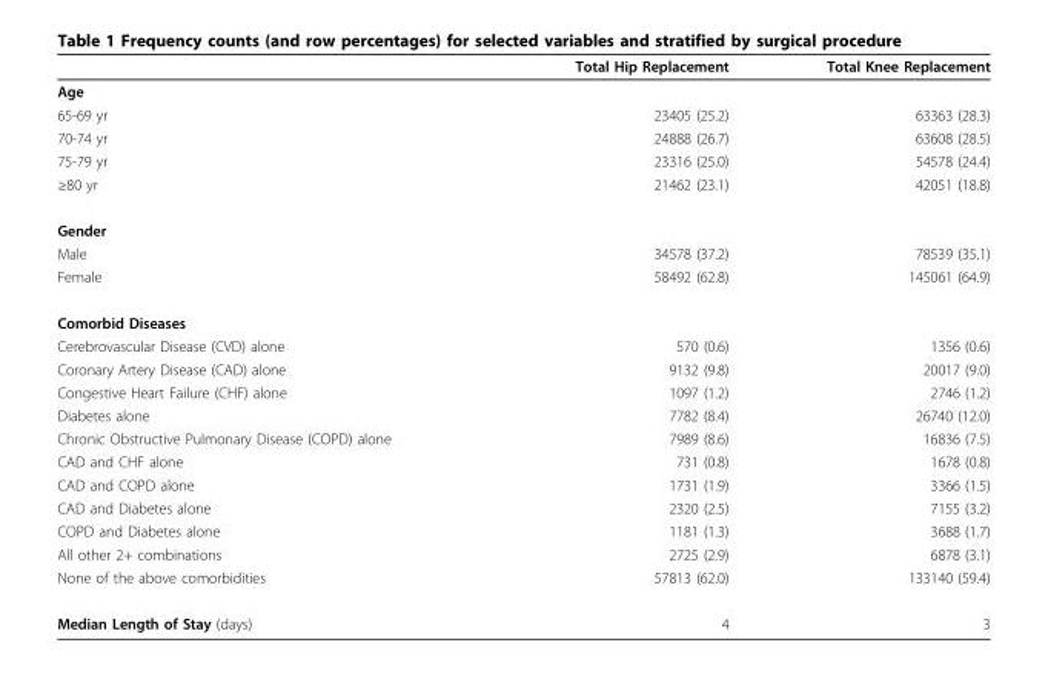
<table><thead><tr><td></td><td>Total Hip Replacement</td><td>Total Knee Replacement</td></tr></thead><tbody><tr><td colspan="3">Age</td></tr><tr><td>65-69 yr</td><td>23405 (25.2)</td><td>63363 (28.3)</td></tr><tr><td>70-74 yr</td><td>24888 (26.7)</td><td>63608 (28.5)</td></tr><tr><td>75-79 yr</td><td>23316 (25.0)</td><td>54578 (24.4)</td></tr><tr><td>≥80 yr</td><td>21462 (23.1)</td><td>42051 (18.8)</td></tr><tr><td colspan="3">Gender</td></tr><tr><td>Male</td><td>34578 (37.2)</td><td>78539 (35.1)</td></tr><tr><td>Female</td><td>58492 (62.8)</td><td>145061 (64.9)</td></tr><tr><td colspan="3">Comorbid Diseases</td></tr><tr><td>Cerebrovascular Disease (CVD) alone</td><td>570 (0.6)</td><td>1356 (0.6)</td></tr><tr><td>Coronary Artery Disease (CAD) alone</td><td>9132 (9.8)</td><td>20017 (9.0)</td></tr><tr><td>Congestive Heart Failure (CHF) alone</td><td>1097 (1.2)</td><td>2746 (1.2)</td></tr><tr><td>Diabetes alone</td><td>7782 (8.4)</td><td>26740 (12.0)</td></tr><tr><td>Chronic Obstructive Pulmonary Disease (COPD) alone</td><td>7989 (8.6)</td><td>16836 (7.5)</td></tr><tr><td>CAD and CHF alone</td><td>731 (0.8)</td><td>1678 (0.8)</td></tr><tr><td>CAD and COPD alone</td><td>1731 (1.9)</td><td>3366 (1.5)</td></tr><tr><td>CAD and Diabetes alone</td><td>2320 (2.5)</td><td>7155 (3.2)</td></tr><tr><td>COPD and Diabetes alone</td><td>1181 (1.3)</td><td>3688 (1.7)</td></tr><tr><td>All other 2+ combinations</td><td>2725 (2.9)</td><td>6878 (3.1)</td></tr><tr><td>None of the above comorbidities</td><td>57813 (62.0)</td><td>133140 (59.4)</td></tr><tr><td>Median Length of Stay (days)</td><td>4</td><td>3</td></tr></tbody></table>